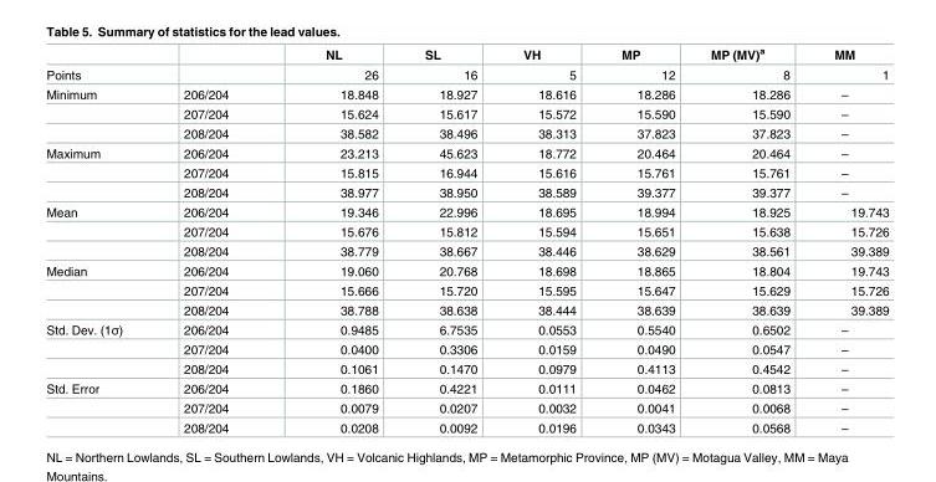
<table><thead><tr><td></td><td></td><td>NL</td><td>SL</td><td>VH</td><td>MP</td><td>MP (MV)<sup>a</sup></td><td>MM</td></tr></thead><tbody><tr><td>Points</td><td></td><td>26</td><td>16</td><td>5</td><td>12</td><td>8</td><td>1</td></tr><tr><td rowspan="3">Minimum</td><td>206/204</td><td>18.848</td><td>18.927</td><td>18.616</td><td>18.286</td><td>18.286</td><td>–</td></tr><tr><td>207/204</td><td>15.624</td><td>15.617</td><td>15.572</td><td>15.590</td><td>15.590</td><td>–</td></tr><tr><td>208/204</td><td>38.582</td><td>38.496</td><td>38.313</td><td>37.823</td><td>37.823</td><td>–</td></tr><tr><td rowspan="3">Maximum</td><td>206/204</td><td>23.213</td><td>45.623</td><td>18.772</td><td>20.464</td><td>20.464</td><td>–</td></tr><tr><td>207/204</td><td>15.815</td><td>16.944</td><td>15.616</td><td>15.761</td><td>15.761</td><td>–</td></tr><tr><td>208/204</td><td>38.977</td><td>38.950</td><td>38.589</td><td>39.377</td><td>39.377</td><td>–</td></tr><tr><td rowspan="3">Mean</td><td>206/204</td><td>19.346</td><td>22.996</td><td>18.695</td><td>18.994</td><td>18.925</td><td>19.743</td></tr><tr><td>207/204</td><td>15.676</td><td>15.812</td><td>15.594</td><td>15.651</td><td>15.638</td><td>15.726</td></tr><tr><td>208/204</td><td>38.779</td><td>38.667</td><td>38.446</td><td>38.629</td><td>38.561</td><td>39.389</td></tr><tr><td rowspan="3">Median</td><td>206/204</td><td>19.060</td><td>20.768</td><td>18.698</td><td>18.865</td><td>18.804</td><td>19.743</td></tr><tr><td>207/204</td><td>15.666</td><td>15.720</td><td>15.595</td><td>15.647</td><td>15.629</td><td>15.726</td></tr><tr><td>208/204</td><td>38.788</td><td>38.638</td><td>38.444</td><td>38.639</td><td>38.639</td><td>39.389</td></tr><tr><td rowspan="3">Std. Dev. (1σ)</td><td>206/204</td><td>0.9485</td><td>6.7535</td><td>0.0553</td><td>0.5540</td><td>0.6502</td><td>–</td></tr><tr><td>207/204</td><td>0.0400</td><td>0.3306</td><td>0.0159</td><td>0.0490</td><td>0.0547</td><td>–</td></tr><tr><td>208/204</td><td>0.1061</td><td>0.1470</td><td>0.0979</td><td>0.4113</td><td>0.4542</td><td>–</td></tr><tr><td rowspan="3">Std. Error</td><td>206/204</td><td>0.1860</td><td>0.4221</td><td>0.0111</td><td>0.0462</td><td>0.0813</td><td>–</td></tr><tr><td>207/204</td><td>0.0079</td><td>0.0207</td><td>0.0032</td><td>0.0041</td><td>0.0068</td><td>–</td></tr><tr><td>208/204</td><td>0.0208</td><td>0.0092</td><td>0.0196</td><td>0.0343</td><td>0.0568</td><td>–</td></tr></tbody></table>